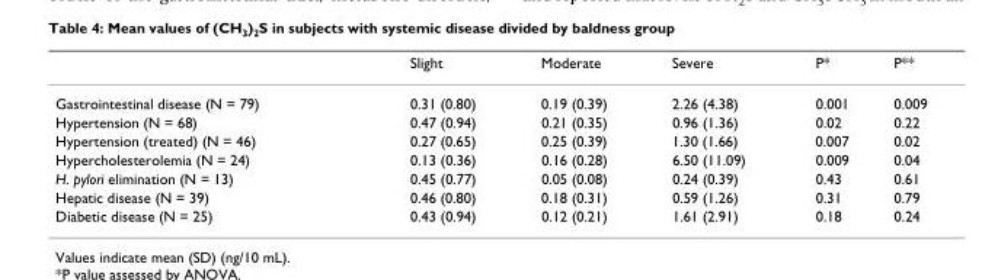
<table><thead><tr><td></td><td>Slight</td><td>Moderate</td><td>Severe</td><td>P*</td><td>P**</td></tr></thead><tbody><tr><td>Gastrointestinal disease (N = 79)</td><td>0.31 (0.80)</td><td>0.19 (0.39)</td><td>2.26 (4.38)</td><td>0.001</td><td>0.009</td></tr><tr><td>Hypertension (N = 68)</td><td>0.47 (0.94)</td><td>0.21 (0.35)</td><td>0.96 (1.36)</td><td>0.02</td><td>0.22</td></tr><tr><td>Hypertension (treated) (N = 46)</td><td>0.27 (0.65)</td><td>0.25 (0.39)</td><td>1.30 (1.66)</td><td>0.007</td><td>0.02</td></tr><tr><td>Hypercholesterolemia (N = 24)</td><td>0.13 (0.36)</td><td>0.16 (0.28)</td><td>6.50 (11.09)</td><td>0.009</td><td>0.04</td></tr><tr><td>H. pylori elimination (N = 13)</td><td>0.45 (0.77)</td><td>0.05 (0.08)</td><td>0.24 (0.39)</td><td>0.43</td><td>0.61</td></tr><tr><td>Hepatic disease (N = 39)</td><td>0.46 (0.80)</td><td>0.18 (0.31)</td><td>0.59 (1.26)</td><td>0.31</td><td>0.79</td></tr><tr><td>Diabetic disease (N = 25)</td><td>0.43 (0.94)</td><td>0.12 (0.21)</td><td>1.61 (2.91)</td><td>0.18</td><td>0.24</td></tr></tbody></table>